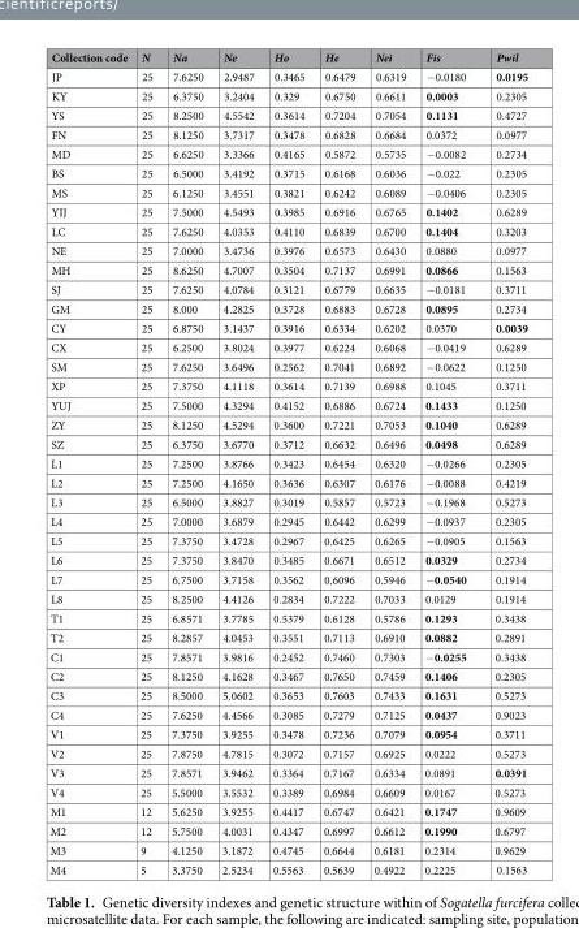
<table><thead><tr><td>Collection code</td><td>N</td><td>Na</td><td>Ne</td><td>Ho</td><td>He</td><td>Nei</td><td>Fis</td><td>Pwil</td></tr></thead><tbody><tr><td>JP</td><td>25</td><td>7.6250</td><td>2.9487</td><td>0.3465</td><td>0.6479</td><td>0.6319</td><td>−0.0180</td><td>0.0195</td></tr><tr><td>KY</td><td>25</td><td>6.3750</td><td>3.2404</td><td>0.329</td><td>0.6750</td><td>0.6611</td><td>0.0003</td><td>0.2305</td></tr><tr><td>YS</td><td>25</td><td>8.2500</td><td>4.5542</td><td>0.3614</td><td>0.7204</td><td>0.7054</td><td>0.1131</td><td>0.4727</td></tr><tr><td>FN</td><td>25</td><td>8.1250</td><td>3.7317</td><td>0.3478</td><td>0.6828</td><td>0.6684</td><td>0.0372</td><td>0.0977</td></tr><tr><td>MD</td><td>25</td><td>6.6250</td><td>3.3366</td><td>0.4165</td><td>0.5872</td><td>0.5735</td><td>−0.0082</td><td>0.2734</td></tr><tr><td>BS</td><td>25</td><td>6.5000</td><td>3.4192</td><td>0.3715</td><td>0.6168</td><td>0.6036</td><td>−0.022</td><td>0.2305</td></tr><tr><td>MS</td><td>25</td><td>6.1250</td><td>3.4551</td><td>0.3821</td><td>0.6242</td><td>0.6089</td><td>−0.0406</td><td>0.2305</td></tr><tr><td>YIJ</td><td>25</td><td>7.5000</td><td>4.5493</td><td>0.3985</td><td>0.6916</td><td>0.6765</td><td>0.1402</td><td>0.6289</td></tr><tr><td>LC</td><td>25</td><td>7.6250</td><td>4.0353</td><td>0.4110</td><td>0.6839</td><td>0.6700</td><td>0.1404</td><td>0.3203</td></tr><tr><td>NE</td><td>25</td><td>7.0000</td><td>3.4736</td><td>0.3976</td><td>0.6573</td><td>0.6430</td><td>0.0880</td><td>0.0977</td></tr><tr><td>MH</td><td>25</td><td>8.6250</td><td>4.7007</td><td>0.3504</td><td>0.7137</td><td>0.6991</td><td>0.0866</td><td>0.1563</td></tr><tr><td>SJ</td><td>25</td><td>7.6250</td><td>4.0784</td><td>0.3121</td><td>0.6779</td><td>0.6635</td><td>−0.0181</td><td>0.3711</td></tr><tr><td>GM</td><td>25</td><td>8.000</td><td>4.2825</td><td>0.3728</td><td>0.6883</td><td>0.6728</td><td>0.0895</td><td>0.2734</td></tr><tr><td>CY</td><td>25</td><td>6.8750</td><td>3.1437</td><td>0.3916</td><td>0.6334</td><td>0.6202</td><td>0.0370</td><td>0.0039</td></tr><tr><td>CX</td><td>25</td><td>6.2500</td><td>3.8024</td><td>0.3977</td><td>0.6224</td><td>0.6068</td><td>−0.0419</td><td>0.6289</td></tr><tr><td>SM</td><td>25</td><td>7.6250</td><td>3.6496</td><td>0.2562</td><td>0.7041</td><td>0.6892</td><td>−0.0622</td><td>0.1250</td></tr><tr><td>XP</td><td>25</td><td>7.3750</td><td>4.1118</td><td>0.3614</td><td>0.7139</td><td>0.6988</td><td>0.1045</td><td>0.3711</td></tr><tr><td>YUJ</td><td>25</td><td>7.5000</td><td>4.3294</td><td>0.4152</td><td>0.6886</td><td>0.6724</td><td>0.1433</td><td>0.1250</td></tr><tr><td>ZY</td><td>25</td><td>8.1250</td><td>4.5294</td><td>0.3600</td><td>0.7221</td><td>0.7053</td><td>0.1040</td><td>0.6289</td></tr><tr><td>SZ</td><td>25</td><td>6.3750</td><td>3.6770</td><td>0.3712</td><td>0.6632</td><td>0.6496</td><td>0.0498</td><td>0.6289</td></tr><tr><td>L1</td><td>25</td><td>7.2500</td><td>3.8766</td><td>0.3423</td><td>0.6454</td><td>0.6320</td><td>−0.0266</td><td>0.2305</td></tr><tr><td>L2</td><td>25</td><td>7.2500</td><td>4.1650</td><td>0.3636</td><td>0.6307</td><td>0.6176</td><td>−0.0088</td><td>0.4219</td></tr><tr><td>L3</td><td>25</td><td>6.5000</td><td>3.8827</td><td>0.3019</td><td>0.5857</td><td>0.5723</td><td>−0.1968</td><td>0.5273</td></tr><tr><td>L4</td><td>25</td><td>7.0000</td><td>3.6879</td><td>0.2945</td><td>0.6442</td><td>0.6299</td><td>−0.0937</td><td>0.2305</td></tr><tr><td>L5</td><td>25</td><td>7.3750</td><td>3.4728</td><td>0.2967</td><td>0.6425</td><td>0.6265</td><td>−0.0905</td><td>0.1563</td></tr><tr><td>L6</td><td>25</td><td>7.3750</td><td>3.8470</td><td>0.3485</td><td>0.6671</td><td>0.6512</td><td>0.0329</td><td>0.2734</td></tr><tr><td>L7</td><td>25</td><td>6.7500</td><td>3.7158</td><td>0.3562</td><td>0.6096</td><td>0.5946</td><td>−0.0540</td><td>0.1914</td></tr><tr><td>L8</td><td>25</td><td>8.2500</td><td>4.4126</td><td>0.2834</td><td>0.7222</td><td>0.7033</td><td>0.0129</td><td>0.1914</td></tr><tr><td>T1</td><td>25</td><td>6.8571</td><td>3.7785</td><td>0.5379</td><td>0.6128</td><td>0.5786</td><td>0.1293</td><td>0.3438</td></tr><tr><td>T2</td><td>25</td><td>8.2857</td><td>4.0453</td><td>0.3551</td><td>0.7113</td><td>0.6910</td><td>0.0882</td><td>0.2891</td></tr><tr><td>C1</td><td>25</td><td>7.8571</td><td>3.9816</td><td>0.2452</td><td>0.7460</td><td>0.7303</td><td>−0.0255</td><td>0.3438</td></tr><tr><td>C2</td><td>25</td><td>8.1250</td><td>4.1628</td><td>0.3467</td><td>0.7650</td><td>0.7459</td><td>0.1406</td><td>0.2305</td></tr><tr><td>C3</td><td>25</td><td>8.5000</td><td>5.0602</td><td>0.3653</td><td>0.7603</td><td>0.7433</td><td>0.1631</td><td>0.5273</td></tr><tr><td>C4</td><td>25</td><td>7.6250</td><td>4.4566</td><td>0.3085</td><td>0.7279</td><td>0.7125</td><td>0.0437</td><td>0.9023</td></tr><tr><td>V1</td><td>25</td><td>7.3750</td><td>3.9255</td><td>0.3478</td><td>0.7236</td><td>0.7079</td><td>0.0954</td><td>0.3711</td></tr><tr><td>V2</td><td>25</td><td>7.8750</td><td>4.7815</td><td>0.3072</td><td>0.7157</td><td>0.6925</td><td>0.0222</td><td>0.5273</td></tr><tr><td>V3</td><td>25</td><td>7.8571</td><td>3.9462</td><td>0.3364</td><td>0.7167</td><td>0.6334</td><td>0.0891</td><td>0.0391</td></tr><tr><td>V4</td><td>25</td><td>5.5000</td><td>3.5532</td><td>0.3389</td><td>0.6984</td><td>0.6609</td><td>0.0167</td><td>0.5273</td></tr><tr><td>M1</td><td>12</td><td>5.6250</td><td>3.9255</td><td>0.4417</td><td>0.6747</td><td>0.6421</td><td>0.1747</td><td>0.9609</td></tr><tr><td>M2</td><td>12</td><td>5.7500</td><td>4.0031</td><td>0.4347</td><td>0.6997</td><td>0.6612</td><td>0.1990</td><td>0.6797</td></tr><tr><td>M3</td><td>9</td><td>4.1250</td><td>3.1872</td><td>0.4745</td><td>0.6644</td><td>0.6181</td><td>0.2314</td><td>0.9629</td></tr><tr><td>M4</td><td>5</td><td>3.3750</td><td>2.5234</td><td>0.5563</td><td>0.5639</td><td>0.4922</td><td>0.2225</td><td>0.1563</td></tr></tbody></table>